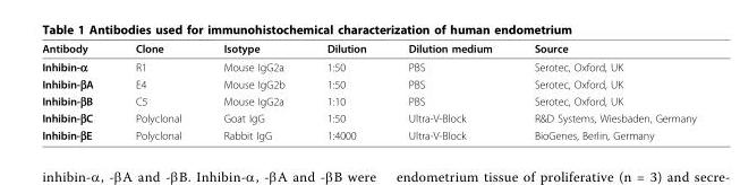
<table><thead><tr><td>Antibody</td><td>Clone</td><td>Isotype</td><td>Dilution</td><td>Dilution medium</td><td>Source</td></tr></thead><tbody><tr><td>Inhibin-α</td><td>R1</td><td>Mouse IgG2a</td><td>1:50</td><td>PBS</td><td>Serotec, Oxford, UK</td></tr><tr><td>Inhibin-βA</td><td>E4</td><td>Mouse IgG2b</td><td>1:50</td><td>PBS</td><td>Serotec, Oxford, UK</td></tr><tr><td>Inhibin-βB</td><td>C5</td><td>Mouse IgG2a</td><td>1:10</td><td>PBS</td><td>Serotec, Oxford, UK</td></tr><tr><td>Inhibin-βC</td><td>Polyclonal</td><td>Goat IgG</td><td>1:50</td><td>Ultra-V-Block</td><td>R&amp;D Systems, Wiesbaden, Germany</td></tr><tr><td>Inhibin-βE</td><td>Polyclonal</td><td>Rabbit IgG</td><td>1:4000</td><td>Ultra-V-Block</td><td>BioGenes, Berlin, Germany</td></tr></tbody></table>